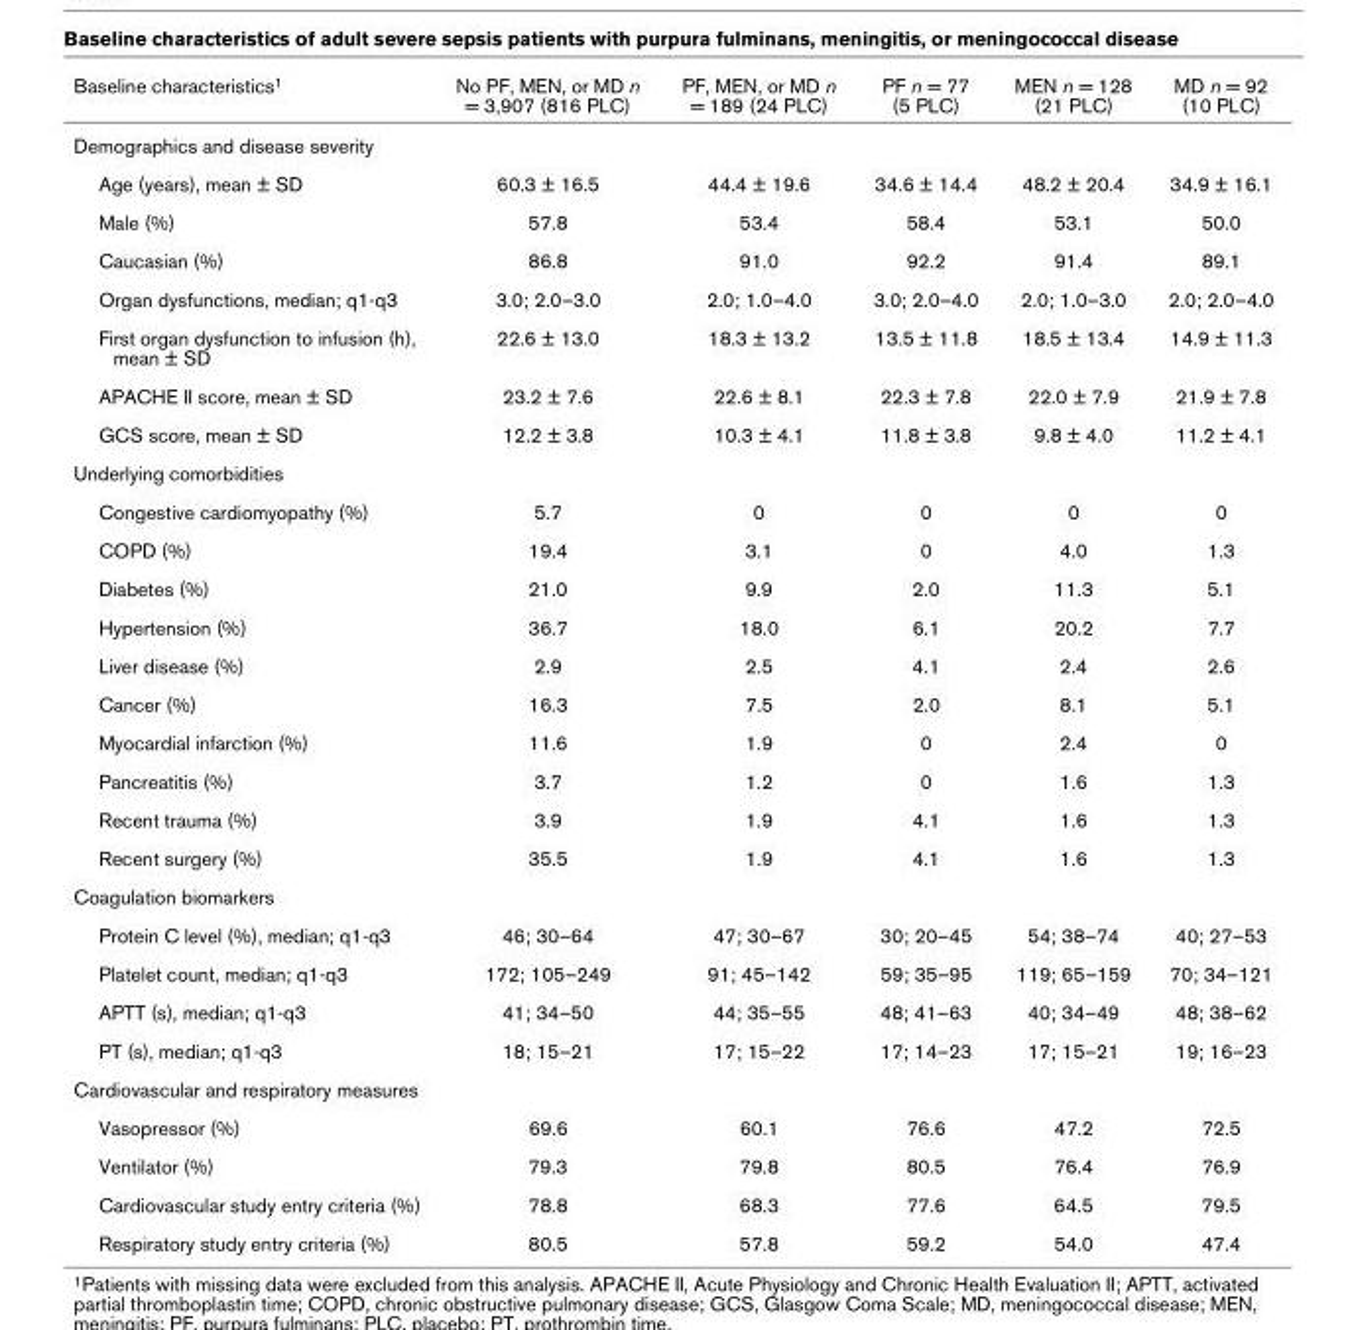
<table><thead><tr><td>Baseline characteristics1</td><td>No PF, MEN, or MD n = 3,907 (816 PLC)</td><td>PF, MEN, or MD n = 189 (24 PLC)</td><td>PF n = 77 (5 PLC)</td><td>MEN n = 128 (21 PLC)</td><td>MD n = 92 (10 PLC)</td></tr></thead><tbody><tr><td colspan="6">Demographics and disease severity</td></tr><tr><td>Age (years), mean ± SD</td><td>60.3 ± 16.5</td><td>44.4 ± 19.6</td><td>34.6 ± 14.4</td><td>48.2 ± 20.4</td><td>34.9 ± 16.1</td></tr><tr><td>Male (%)</td><td>57.8</td><td>53.4</td><td>58.4</td><td>53.1</td><td>50.0</td></tr><tr><td>Caucasian (%)</td><td>86.8</td><td>91.0</td><td>92.2</td><td>91.4</td><td>89.1</td></tr><tr><td>Organ dysfunctions, median; q1-q3</td><td>3.0; 2.0–3.0</td><td>2.0; 1.0–4.0</td><td>3.0; 2.0–4.0</td><td>2.0; 1.0–3.0</td><td>2.0; 2.0–4.0</td></tr><tr><td>First organ dysfunction to infusion (h), mean ± SD</td><td>22.6 ± 13.0</td><td>18.3 ± 13.2</td><td>13.5 ± 11.8</td><td>18.5 ± 13.4</td><td>14.9 ± 11.3</td></tr><tr><td>APACHE II score, mean ± SD</td><td>23.2 ± 7.6</td><td>22.6 ± 8.1</td><td>22.3 ± 7.8</td><td>22.0 ± 7.9</td><td>21.9 ± 7.8</td></tr><tr><td>GCS score, mean ± SD</td><td>12.2 ± 3.8</td><td>10.3 ± 4.1</td><td>11.8 ± 3.8</td><td>9.8 ± 4.0</td><td>11.2 ± 4.1</td></tr><tr><td colspan="6">Underlying comorbidities</td></tr><tr><td>Congestive cardiomyopathy (%)</td><td>5.7</td><td>0</td><td>0</td><td>0</td><td>0</td></tr><tr><td>COPD (%)</td><td>19.4</td><td>3.1</td><td>0</td><td>4.0</td><td>1.3</td></tr><tr><td>Diabetes (%)</td><td>21.0</td><td>9.9</td><td>2.0</td><td>11.3</td><td>5.1</td></tr><tr><td>Hypertension (%)</td><td>36.7</td><td>18.0</td><td>6.1</td><td>20.2</td><td>7.7</td></tr><tr><td>Liver disease (%)</td><td>2.9</td><td>2.5</td><td>4.1</td><td>2.4</td><td>2.6</td></tr><tr><td>Cancer (%)</td><td>16.3</td><td>7.5</td><td>2.0</td><td>8.1</td><td>5.1</td></tr><tr><td>Myocardial infarction (%)</td><td>11.6</td><td>1.9</td><td>0</td><td>2.4</td><td>0</td></tr><tr><td>Pancreatitis (%)</td><td>3.7</td><td>1.2</td><td>0</td><td>1.6</td><td>1.3</td></tr><tr><td>Recent trauma (%)</td><td>3.9</td><td>1.9</td><td>4.1</td><td>1.6</td><td>1.3</td></tr><tr><td>Recent surgery (%)</td><td>35.5</td><td>1.9</td><td>4.1</td><td>1.6</td><td>1.3</td></tr><tr><td colspan="6">Coagulation biomarkers</td></tr><tr><td>Protein C level (%), median; q1-q3</td><td>46; 30–64</td><td>47; 30–67</td><td>30; 20–45</td><td>54; 38–74</td><td>40; 27–53</td></tr><tr><td>Platelet count, median; q1-q3</td><td>172; 105–249</td><td>91; 45–142</td><td>59; 35–95</td><td>119; 65–159</td><td>70; 34–121</td></tr><tr><td>APTT (s), median; q1-q3</td><td>41; 34–50</td><td>44; 35–55</td><td>48; 41–63</td><td>40; 34–49</td><td>48; 38–62</td></tr><tr><td>PT (s), median; q1-q3</td><td>18; 15–21</td><td>17; 15–22</td><td>17; 14–23</td><td>17; 15–21</td><td>19; 16–23</td></tr><tr><td colspan="6">Cardiovascular and respiratory measures</td></tr><tr><td>Vasopressor (%)</td><td>69.6</td><td>60.1</td><td>76.6</td><td>47.2</td><td>72.5</td></tr><tr><td>Ventilator (%)</td><td>79.3</td><td>79.8</td><td>80.5</td><td>76.4</td><td>76.9</td></tr><tr><td>Cardiovascular study entry criteria (%)</td><td>78.8</td><td>68.3</td><td>77.6</td><td>64.5</td><td>79.5</td></tr><tr><td>Respiratory study entry criteria (%)</td><td>80.5</td><td>57.8</td><td>59.2</td><td>54.0</td><td>47.4</td></tr></tbody></table>